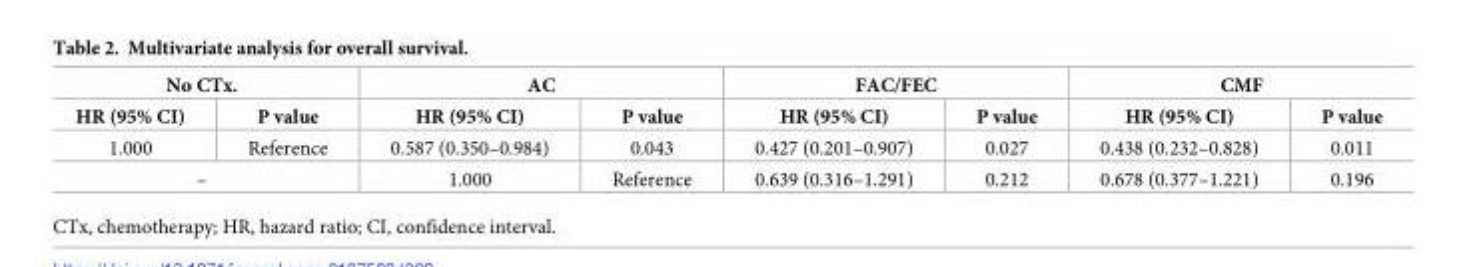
<table><thead><tr><td colspan="2">No CTx.</td><td colspan="2">AC</td><td colspan="2">FAC/FEC</td><td colspan="2">CMF</td></tr><tr><td>HR (95% CI)</td><td>P value</td><td>HR (95% CI)</td><td>P value</td><td>HR (95% CI)</td><td>P value</td><td>HR (95% CI)</td><td>P value</td></tr></thead><tbody><tr><td>1.000</td><td>Reference</td><td>0.587 (0.350–0.984)</td><td>0.043</td><td>0.427 (0.201–0.907)</td><td>0.027</td><td>0.438 (0.232–0.828)</td><td>0.011</td></tr><tr><td colspan="2">–</td><td>1.000</td><td>Reference</td><td>0.639 (0.316–1.291)</td><td>0.212</td><td>0.678 (0.377–1.221)</td><td>0.196</td></tr></tbody></table>